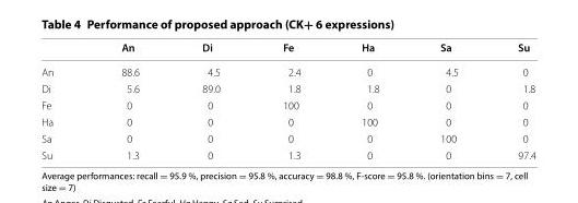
<table><thead><tr><td></td><td>An</td><td>Di</td><td>Fe</td><td>Ha</td><td>Sa</td><td>Su</td></tr></thead><tbody><tr><td>An</td><td>88.6</td><td>4.5</td><td>2.4</td><td>0</td><td>4.5</td><td>0</td></tr><tr><td>Di</td><td>5.6</td><td>89.0</td><td>1.8</td><td>1.8</td><td>0</td><td>1.8</td></tr><tr><td>Fe</td><td>0</td><td>0</td><td>100</td><td>0</td><td>0</td><td>0</td></tr><tr><td>Ha</td><td>0</td><td>0</td><td>0</td><td>100</td><td>0</td><td>0</td></tr><tr><td>Sa</td><td>0</td><td>0</td><td>0</td><td>0</td><td>100</td><td>0</td></tr><tr><td>Su</td><td>1.3</td><td>0</td><td>1.3</td><td>0</td><td>0</td><td>97.4</td></tr></tbody></table>